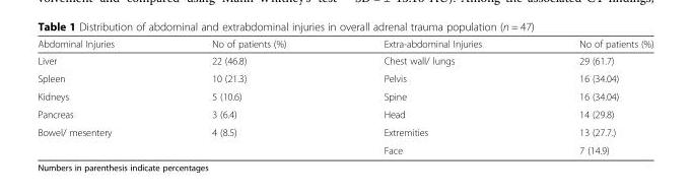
<table><thead><tr><td>Abdominal Injuries</td><td>No of patients (%)</td><td>Extra-abdominal Injuries</td><td>No of patients (%)</td></tr></thead><tbody><tr><td>Liver</td><td>22 (46.8)</td><td>Chest wall/ lungs</td><td>29 (61.7)</td></tr><tr><td>Spleen</td><td>10 (21.3)</td><td>Pelvis</td><td>16 (34.04)</td></tr><tr><td>Kidneys</td><td>5 (10.6)</td><td>Spine</td><td>16 (34.04)</td></tr><tr><td>Pancreas</td><td>3 (6.4)</td><td>Head</td><td>14 (29.8)</td></tr><tr><td rowspan="2">Bowel/ mesentery</td><td>4 (8.5)</td><td>Extremities</td><td>13 (27.7.)</td></tr><tr><td></td><td>Face</td><td>7 (14.9)</td></tr></tbody></table>